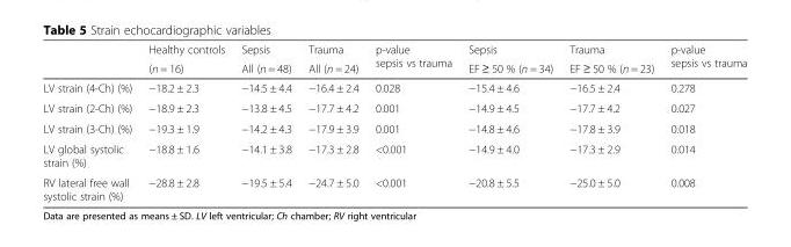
<table><thead><tr><td rowspan="2"></td><td rowspan="2">Healthy controls (n = 16)</td><td rowspan="2">Sepsis All (n = 48)</td><td rowspan="2">Trauma All (n = 24)</td><td rowspan="2">p-value sepsis vs trauma</td><td rowspan="2">Sepsis EF ≥ 50 % (n = 34)</td><td rowspan="2">Trauma EF ≥ 50 % (n = 23)</td><td rowspan="2">p-value sepsis vs trauma</td></tr><tr></tr></thead><tbody><tr><td>LV strain (4-Ch) (%)</td><td>−18.2 ± 2.3</td><td>−14.5 ± 4.4</td><td>−16.4 ± 2.4</td><td>0.028</td><td>−15.4 ± 4.6</td><td>−16.5 ± 2.4</td><td>0.278</td></tr><tr><td>LV strain (2-Ch) (%)</td><td>−18.9 ± 2.3</td><td>−13.8 ± 4.5</td><td>−17.7 ± 4.2</td><td>0.001</td><td>−14.9 ± 4.5</td><td>−17.7 ± 4.2</td><td>0.027</td></tr><tr><td>LV strain (3-Ch) (%)</td><td>−19.3 ± 1.9</td><td>−14.2 ± 4.3</td><td>−17.9 ± 3.9</td><td>0.001</td><td>−14.8 ± 4.6</td><td>−17.8 ± 3.9</td><td>0.018</td></tr><tr><td>LV global systolic strain (%)</td><td>−18.8 ± 1.6</td><td>−14.1 ± 3.8</td><td>−17.3 ± 2.8</td><td>&lt;0.001</td><td>−14.9 ± 4.0</td><td>−17.3 ± 2.9</td><td>0.014</td></tr><tr><td>RV lateral free wall systolic strain (%)</td><td>−28.8 ± 2.8</td><td>−19.5 ± 5.4</td><td>−24.7 ± 5.0</td><td>&lt;0.001</td><td>−20.8 ± 5.5</td><td>−25.0 ± 5.0</td><td>0.008</td></tr></tbody></table>